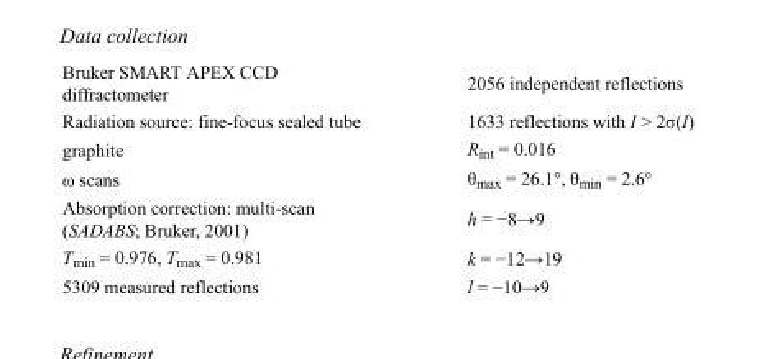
<table><tbody><tr><td>Bruker SMART APEX CCD diffractometer</td><td>2056 independent reflections</td></tr><tr><td>Radiation source: fine-focus sealed tube</td><td>1633 reflections with I &gt; 2σ(I)</td></tr><tr><td>graphite</td><td>R<sub>int</sub> = 0.016</td></tr><tr><td>ω scans</td><td>θ<sub>max</sub> = 26.1°, θ<sub>min</sub> = 2.6°</td></tr><tr><td>Absorption correction: multi-scan (SADABS; Bruker, 2001)</td><td>h = −8→9</td></tr><tr><td>T<sub>min</sub> = 0.976, T<sub>max</sub> = 0.981</td><td>k = −12→19</td></tr><tr><td>5309 measured reflections</td><td>l = −10→9</td></tr></tbody></table>